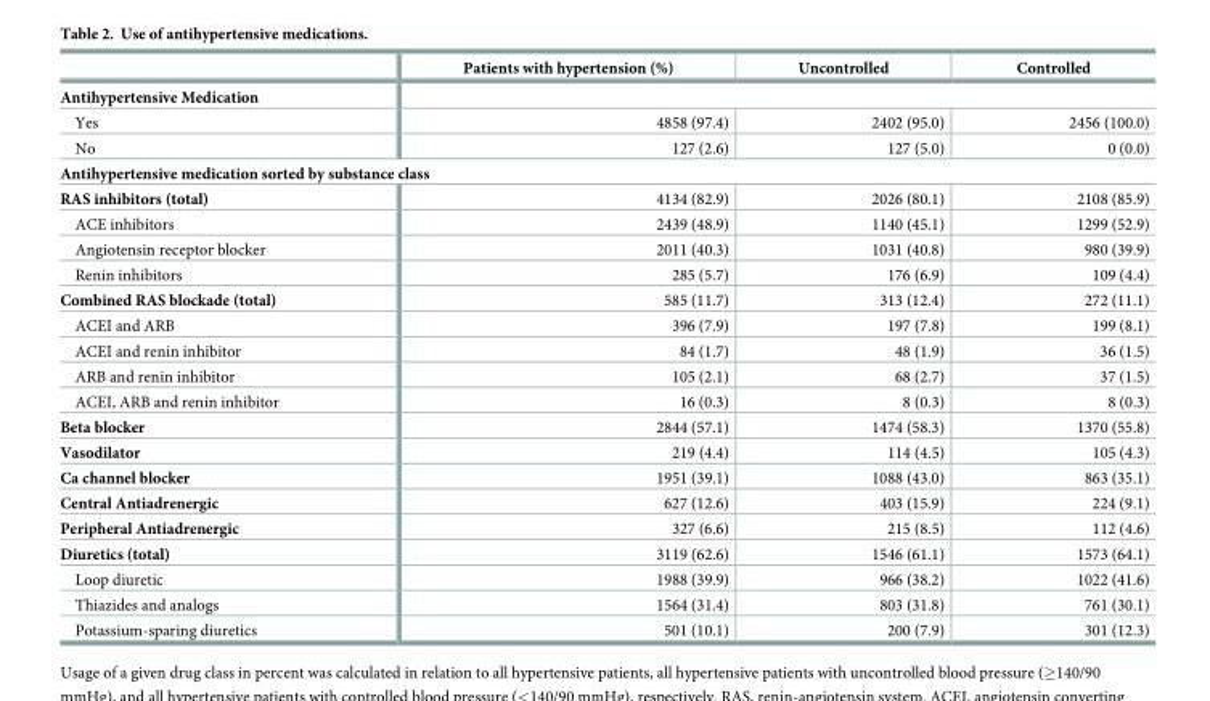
<table><thead><tr><td></td><td>Patients with hypertension (%)</td><td>Uncontrolled</td><td>Controlled</td></tr></thead><tbody><tr><td colspan="4">Antihypertensive Medication</td></tr><tr><td>Yes</td><td>4858 (97.4)</td><td>2402 (95.0)</td><td>2456 (100.0)</td></tr><tr><td>No</td><td>127 (2.6)</td><td>127 (5.0)</td><td>0 (0.0)</td></tr><tr><td colspan="4">Antihypertensive medication sorted by substance class</td></tr><tr><td>RAS inhibitors (total)</td><td>4134 (82.9)</td><td>2026 (80.1)</td><td>2108 (85.9)</td></tr><tr><td>ACE inhibitors</td><td>2439 (48.9)</td><td>1140 (45.1)</td><td>1299 (52.9)</td></tr><tr><td>Angiotensin receptor blocker</td><td>2011 (40.3)</td><td>1031 (40.8)</td><td>980 (39.9)</td></tr><tr><td>Renin inhibitors</td><td>285 (5.7)</td><td>176 (6.9)</td><td>109 (4.4)</td></tr><tr><td>Combined RAS blockade (total)</td><td>585 (11.7)</td><td>313 (12.4)</td><td>272 (11.1)</td></tr><tr><td>ACEI and ARB</td><td>396 (7.9)</td><td>197 (7.8)</td><td>199 (8.1)</td></tr><tr><td>ACEI and renin inhibitor</td><td>84 (1.7)</td><td>48 (1.9)</td><td>36 (1.5)</td></tr><tr><td>ARB and renin inhibitor</td><td>105 (2.1)</td><td>68 (2.7)</td><td>37 (1.5)</td></tr><tr><td>ACEI, ARB and renin inhibitor</td><td>16 (0.3)</td><td>8 (0.3)</td><td>8 (0.3)</td></tr><tr><td>Beta blocker</td><td>2844 (57.1)</td><td>1474 (58.3)</td><td>1370 (55.8)</td></tr><tr><td>Vasodilator</td><td>219 (4.4)</td><td>114 (4.5)</td><td>105 (4.3)</td></tr><tr><td>Ca channel blocker</td><td>1951 (39.1)</td><td>1088 (43.0)</td><td>863 (35.1)</td></tr><tr><td>Central Antiadrenergic</td><td>627 (12.6)</td><td>403 (15.9)</td><td>224 (9.1)</td></tr><tr><td>Peripheral Antiadrenergic</td><td>327 (6.6)</td><td>215 (8.5)</td><td>112 (4.6)</td></tr><tr><td>Diuretics (total)</td><td>3119 (62.6)</td><td>1546 (61.1)</td><td>1573 (64.1)</td></tr><tr><td>Loop diuretic</td><td>1988 (39.9)</td><td>966 (38.2)</td><td>1022 (41.6)</td></tr><tr><td>Thiazides and analogs</td><td>1564 (31.4)</td><td>803 (31.8)</td><td>761 (30.1)</td></tr><tr><td>Potassium-sparing diuretics</td><td>501 (10.1)</td><td>200 (7.9)</td><td>301 (12.3)</td></tr></tbody></table>